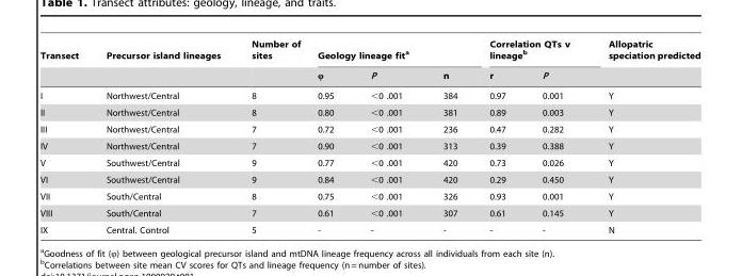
<table><thead><tr><td rowspan="2">Transect</td><td rowspan="2">Precursor island lineages</td><td rowspan="2">Number of sites</td><td colspan="3">Geology lineage fit<sup>a</sup></td><td colspan="2">Correlation QTs v lineage<sup>b</sup></td><td rowspan="2">Allopatric speciation predicted</td></tr><tr><td>ϕ</td><td>P</td><td>n</td><td>r</td><td>P</td></tr></thead><tbody><tr><td>I</td><td>Northwest/Central</td><td>8</td><td>0.95</td><td>&lt;0 .001</td><td>384</td><td>0.97</td><td>0.001</td><td>Y</td></tr><tr><td>II</td><td>Northwest/Central</td><td>8</td><td>0.80</td><td>&lt;0 .001</td><td>381</td><td>0.89</td><td>0.003</td><td>Y</td></tr><tr><td>III</td><td>Northwest/Central</td><td>7</td><td>0.72</td><td>&lt;0 .001</td><td>236</td><td>0.47</td><td>0.282</td><td>Y</td></tr><tr><td>IV</td><td>Northwest/Central</td><td>7</td><td>0.90</td><td>&lt;0 .001</td><td>313</td><td>0.39</td><td>0.388</td><td>Y</td></tr><tr><td>V</td><td>Southwest/Central</td><td>9</td><td>0.77</td><td>&lt;0 .001</td><td>420</td><td>0.73</td><td>0.026</td><td>Y</td></tr><tr><td>VI</td><td>Southwest/Central</td><td>9</td><td>0.84</td><td>&lt;0 .001</td><td>420</td><td>0.29</td><td>0.450</td><td>Y</td></tr><tr><td>VII</td><td>South/Central</td><td>8</td><td>0.75</td><td>&lt;0 .001</td><td>326</td><td>0.93</td><td>0.001</td><td>Y</td></tr><tr><td>VIII</td><td>South/Central</td><td>7</td><td>0.61</td><td>&lt;0 .001</td><td>307</td><td>0.61</td><td>0.145</td><td>Y</td></tr><tr><td>IX</td><td>Central. Control</td><td>5</td><td>-</td><td>-</td><td>-</td><td>-</td><td>-</td><td>N</td></tr></tbody></table>